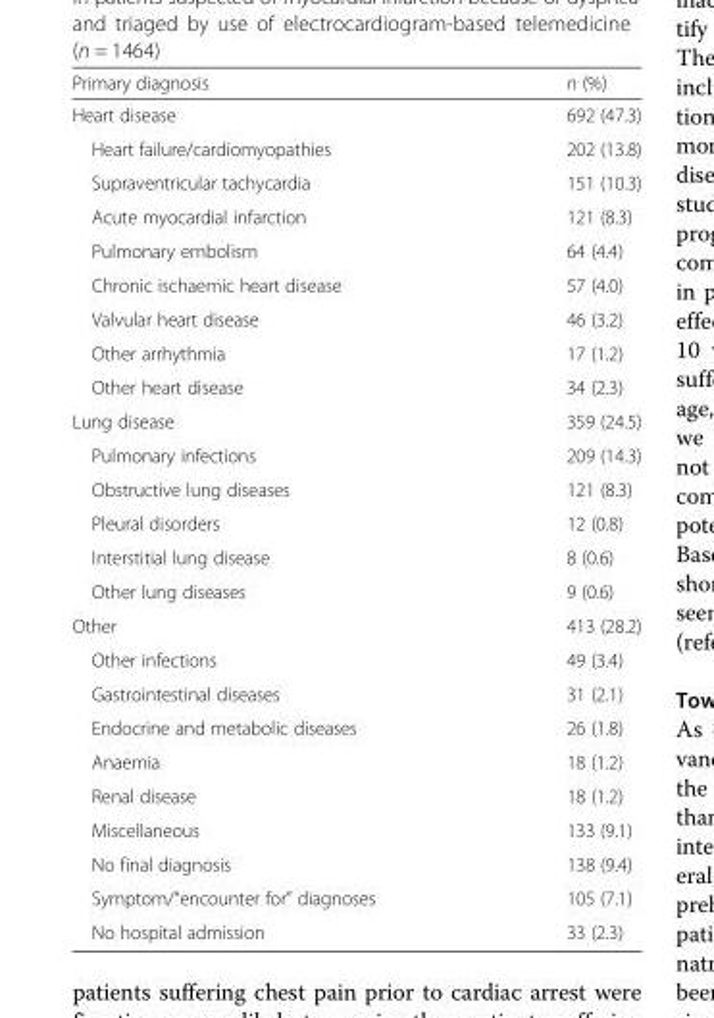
<table><thead><tr><td>Primary diagnosis</td><td>n (%)</td></tr></thead><tbody><tr><td>Heart disease</td><td>692 (47.3)</td></tr><tr><td>Heart failure/cardiomyopathies</td><td>202 (13.8)</td></tr><tr><td>Supraventricular tachycardia</td><td>151 (10.3)</td></tr><tr><td>Acute myocardial infarction</td><td>121 (8.3)</td></tr><tr><td>Pulmonary embolism</td><td>64 (4.4)</td></tr><tr><td>Chronic ischaemic heart disease</td><td>57 (4.0)</td></tr><tr><td>Valvular heart disease</td><td>46 (3.2)</td></tr><tr><td>Other arrhythmia</td><td>17 (1.2)</td></tr><tr><td>Other heart disease</td><td>34 (2.3)</td></tr><tr><td>Lung disease</td><td>359 (24.5)</td></tr><tr><td>Pulmonary infections</td><td>209 (14.3)</td></tr><tr><td>Obstructive lung diseases</td><td>121 (8.3)</td></tr><tr><td>Pleural disorders</td><td>12 (0.8)</td></tr><tr><td>Interstitial lung disease</td><td>8 (0.6)</td></tr><tr><td>Other lung diseases</td><td>9 (0.6)</td></tr><tr><td>Other</td><td>413 (28.2)</td></tr><tr><td>Other infections</td><td>49 (3.4)</td></tr><tr><td>Gastrointestinal diseases</td><td>31 (2.1)</td></tr><tr><td>Endocrine and metabolic diseases</td><td>26 (1.8)</td></tr><tr><td>Anaemia</td><td>18 (1.2)</td></tr><tr><td>Renal disease</td><td>18 (1.2)</td></tr><tr><td>Miscellaneous</td><td>133 (9.1)</td></tr><tr><td>No final diagnosis</td><td>138 (9.4)</td></tr><tr><td>Symptom/“encounter for” diagnoses</td><td>105 (7.1)</td></tr><tr><td>No hospital admission</td><td>33 (2.3)</td></tr></tbody></table>